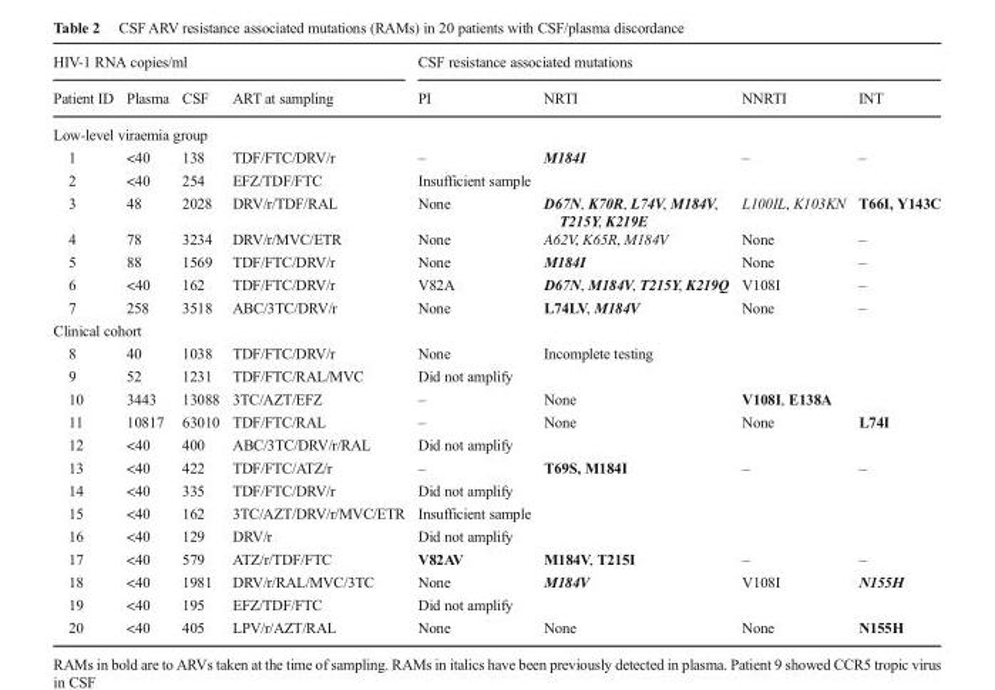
<table><thead><tr><td colspan="4">HIV-1 RNA copies/ml</td><td colspan="4">CSF resistance associated mutations</td></tr><tr><td>Patient ID</td><td>Plasma</td><td>CSF</td><td>ART at sampling</td><td>PI</td><td>NRTI</td><td>NNRTI</td><td>INT</td></tr></thead><tbody><tr><td colspan="8">Low-level viraemia group</td></tr><tr><td>1</td><td>&lt;40</td><td>138</td><td>TDF/FTC/DRV/r</td><td>–</td><td>M184I</td><td>–</td><td>–</td></tr><tr><td>2</td><td>&lt;40</td><td>254</td><td>EFZ/TDF/FTC</td><td>Insufficient sample</td><td></td><td></td><td></td></tr><tr><td>3</td><td>48</td><td>2028</td><td>DRV/r/TDF/RAL</td><td>None</td><td>D67N, K70R, L74V, M184V, T215Y, K219E</td><td>L100IL, K103KN</td><td>T66I, Y143C</td></tr><tr><td>4</td><td>78</td><td>3234</td><td>DRV/r/MVC/ETR</td><td>None</td><td>A62V, K65R, M184V</td><td>None</td><td>–</td></tr><tr><td>5</td><td>88</td><td>1569</td><td>TDF/FTC/DRV/r</td><td>None</td><td>M184I</td><td>None</td><td>–</td></tr><tr><td>6</td><td>&lt;40</td><td>162</td><td>TDF/FTC/DRV/r</td><td>V82A</td><td>D67N, M184V, T215Y, K219Q</td><td>V108I</td><td>–</td></tr><tr><td>7</td><td>258</td><td>3518</td><td>ABC/3TC/DRV/r</td><td>None</td><td>L74LV, M184V</td><td>None</td><td>–</td></tr><tr><td colspan="8">Clinical cohort</td></tr><tr><td>8</td><td>40</td><td>1038</td><td>TDF/FTC/DRV/r</td><td>None</td><td>Incomplete testing</td><td></td><td></td></tr><tr><td>9</td><td>52</td><td>1231</td><td>TDF/FTC/RAL/MVC</td><td>Did not amplify</td><td></td><td></td><td></td></tr><tr><td>10</td><td>3443</td><td>13088</td><td>3TC/AZT/EFZ</td><td>–</td><td>None</td><td>V108I, E138A</td><td></td></tr><tr><td>11</td><td>10817</td><td>63010</td><td>TDF/FTC/RAL</td><td>–</td><td>None</td><td>None</td><td>L74I</td></tr><tr><td>12</td><td>&lt;40</td><td>400</td><td>ABC/3TC/DRV/r/RAL</td><td>Did not amplify</td><td></td><td></td><td></td></tr><tr><td>13</td><td>&lt;40</td><td>422</td><td>TDF/FTC/ATZ/r</td><td>–</td><td>T69S, M184I</td><td>–</td><td>–</td></tr><tr><td>14</td><td>&lt;40</td><td>335</td><td>TDF/FTC/DRV/r</td><td>Did not amplify</td><td></td><td></td><td></td></tr><tr><td>15</td><td>&lt;40</td><td>162</td><td>3TC/AZT/DRV/r/MVC/ETR</td><td>Insufficient sample</td><td></td><td></td><td></td></tr><tr><td>16</td><td>&lt;40</td><td>129</td><td>DRV/r</td><td>Did not amplify</td><td></td><td></td><td></td></tr><tr><td>17</td><td>&lt;40</td><td>579</td><td>ATZ/r/TDF/FTC</td><td>V82AV</td><td>M184V, T215I</td><td>–</td><td>–</td></tr><tr><td>18</td><td>&lt;40</td><td>1981</td><td>DRV/r/RAL/MVC/3TC</td><td>None</td><td>M184V</td><td>V108I</td><td>N155H</td></tr><tr><td>19</td><td>&lt;40</td><td>195</td><td>EFZ/TDF/FTC</td><td>Did not amplify</td><td></td><td></td><td></td></tr><tr><td>20</td><td>&lt;40</td><td>405</td><td>LPV/r/AZT/RAL</td><td>None</td><td>None</td><td>None</td><td>N155H</td></tr></tbody></table>